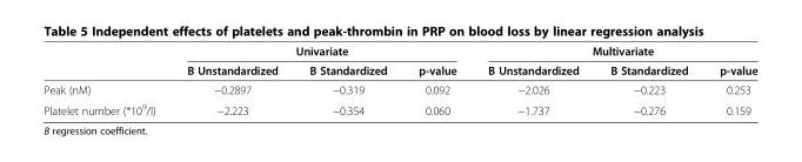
<table><thead><tr><td rowspan="2"></td><td colspan="3">Univariate</td><td colspan="3">Multivariate</td></tr><tr><td>B Unstandardized</td><td>B Standardized</td><td>p-value</td><td>B Unstandardized</td><td>B Standardized</td><td>p-value</td></tr></thead><tbody><tr><td>Peak (nM)</td><td>−0.2897</td><td>−0.319</td><td>0.092</td><td>−2.026</td><td>−0.223</td><td>0.253</td></tr><tr><td>Platelet number (*10<sup>9</sup>/l)</td><td>−2.223</td><td>−0.354</td><td>0.060</td><td>−1.737</td><td>−0.276</td><td>0.159</td></tr></tbody></table>